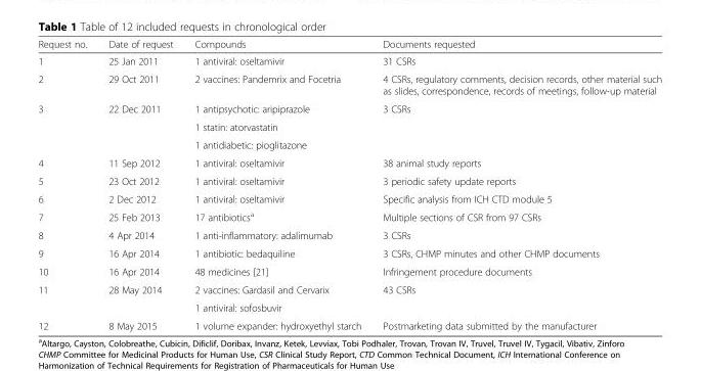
<table><thead><tr><td>Request no.</td><td>Date of request</td><td>Compounds</td><td>Documents requested</td></tr></thead><tbody><tr><td>1</td><td>25 Jan 2011</td><td>1 antiviral: oseltamivir</td><td>31 CSRs</td></tr><tr><td>2</td><td>29 Oct 2011</td><td>2 vaccines: Pandemrix and Focetria</td><td>4 CSRs, regulatory comments, decision records, other material such as slides, correspondence, records of meetings, follow-up material</td></tr><tr><td rowspan="3">3</td><td rowspan="3">22 Dec 2011</td><td>1 antipsychotic: aripiprazole</td><td rowspan="3">3 CSRs</td></tr><tr><td>1 statin: atorvastatin</td></tr><tr><td>1 antidiabetic: pioglitazone</td></tr><tr><td>4</td><td>11 Sep 2012</td><td>1 antiviral: oseltamivir</td><td>38 animal study reports</td></tr><tr><td>5</td><td>23 Oct 2012</td><td>1 antiviral: oseltamivir</td><td>3 periodic safety update reports</td></tr><tr><td>6</td><td>2 Dec 2012</td><td>1 antiviral: oseltamivir</td><td>Specific analysis from ICH CTD module 5</td></tr><tr><td>7</td><td>25 Feb 2013</td><td>17 antibiotics<sup>a</sup></td><td>Multiple sections of CSR from 97 CSRs</td></tr><tr><td>8</td><td>4 Apr 2014</td><td>1 anti-inflammatory: adalimumab</td><td>3 CSRs</td></tr><tr><td>9</td><td>16 Apr 2014</td><td>1 antibiotic: bedaquiline</td><td>3 CSRs, CHMP minutes and other CHMP documents</td></tr><tr><td>10</td><td>16 Apr 2014</td><td>48 medicines [21]</td><td>Infringement procedure documents</td></tr><tr><td rowspan="2">11</td><td rowspan="2">28 May 2014</td><td>2 vaccines: Gardasil and Cervarix</td><td rowspan="2">43 CSRs</td></tr><tr><td>1 antiviral: sofosbuvir</td></tr><tr><td>12</td><td>8 May 2015</td><td>1 volume expander: hydroxyethyl starch</td><td>Postmarketing data submitted by the manufacturer</td></tr></tbody></table>